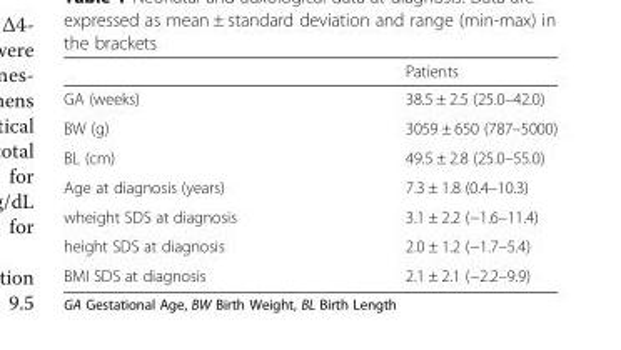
<table><thead><tr><td></td><td>Patients</td></tr></thead><tbody><tr><td>GA (weeks)</td><td>38.5 ± 2.5 (25.0–42.0)</td></tr><tr><td>BW (g)</td><td>3059 ± 650 (787–5000)</td></tr><tr><td>BL (cm)</td><td>49.5 ± 2.8 (25.0–55.0)</td></tr><tr><td>Age at diagnosis (years)</td><td>7.3 ± 1.8 (0.4–10.3)</td></tr><tr><td>wheight SDS at diagnosis</td><td>3.1 ± 2.2 (−1.6–11.4)</td></tr><tr><td>height SDS at diagnosis</td><td>2.0 ± 1.2 (−1.7–5.4)</td></tr><tr><td>BMI SDS at diagnosis</td><td>2.1 ± 2.1 (−2.2–9.9)</td></tr></tbody></table>